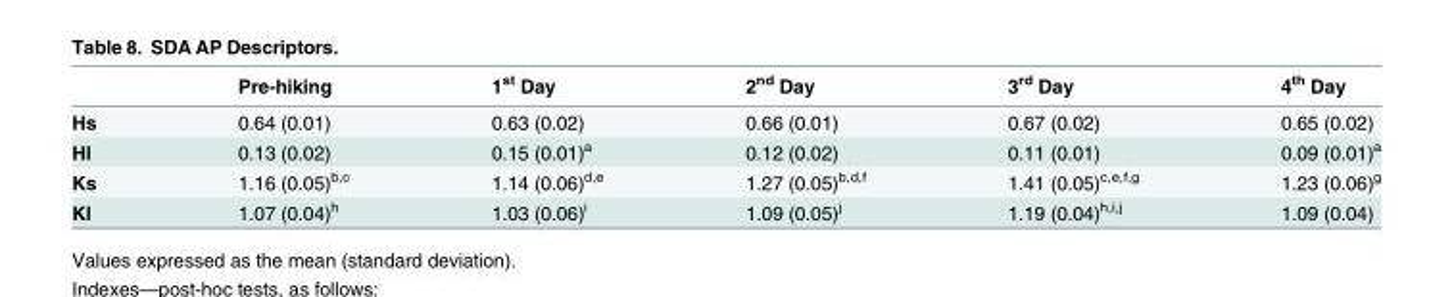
<table><thead><tr><td></td><td>Pre-hiking</td><td>1<sup>st</sup> Day</td><td>2<sup>nd</sup> Day</td><td>3<sup>rd</sup> Day</td><td>4<sup>th</sup> Day</td></tr></thead><tbody><tr><td>Hs</td><td>0.64 (0.01)</td><td>0.63 (0.02)</td><td>0.66 (0.01)</td><td>0.67 (0.02)</td><td>0.65 (0.02)</td></tr><tr><td>Hl</td><td>0.13 (0.02)</td><td>0.15 (0.01)<sup>a</sup></td><td>0.12 (0.02)</td><td>0.11 (0.01)</td><td>0.09 (0.01)<sup>a</sup></td></tr><tr><td>Ks</td><td>1.16 (0.05)<sup>b,c</sup></td><td>1.14 (0.06)<sup>d,e</sup></td><td>1.27 (0.05)<sup>b,d,f</sup></td><td>1.41 (0.05)<sup>c,e,f,g</sup></td><td>1.23 (0.06)<sup>g</sup></td></tr><tr><td>Kl</td><td>1.07 (0.04)<sup>h</sup></td><td>1.03 (0.06)<sup>i</sup></td><td>1.09 (0.05)<sup>j</sup></td><td>1.19 (0.04)<sup>h,i,j</sup></td><td>1.09 (0.04)</td></tr></tbody></table>